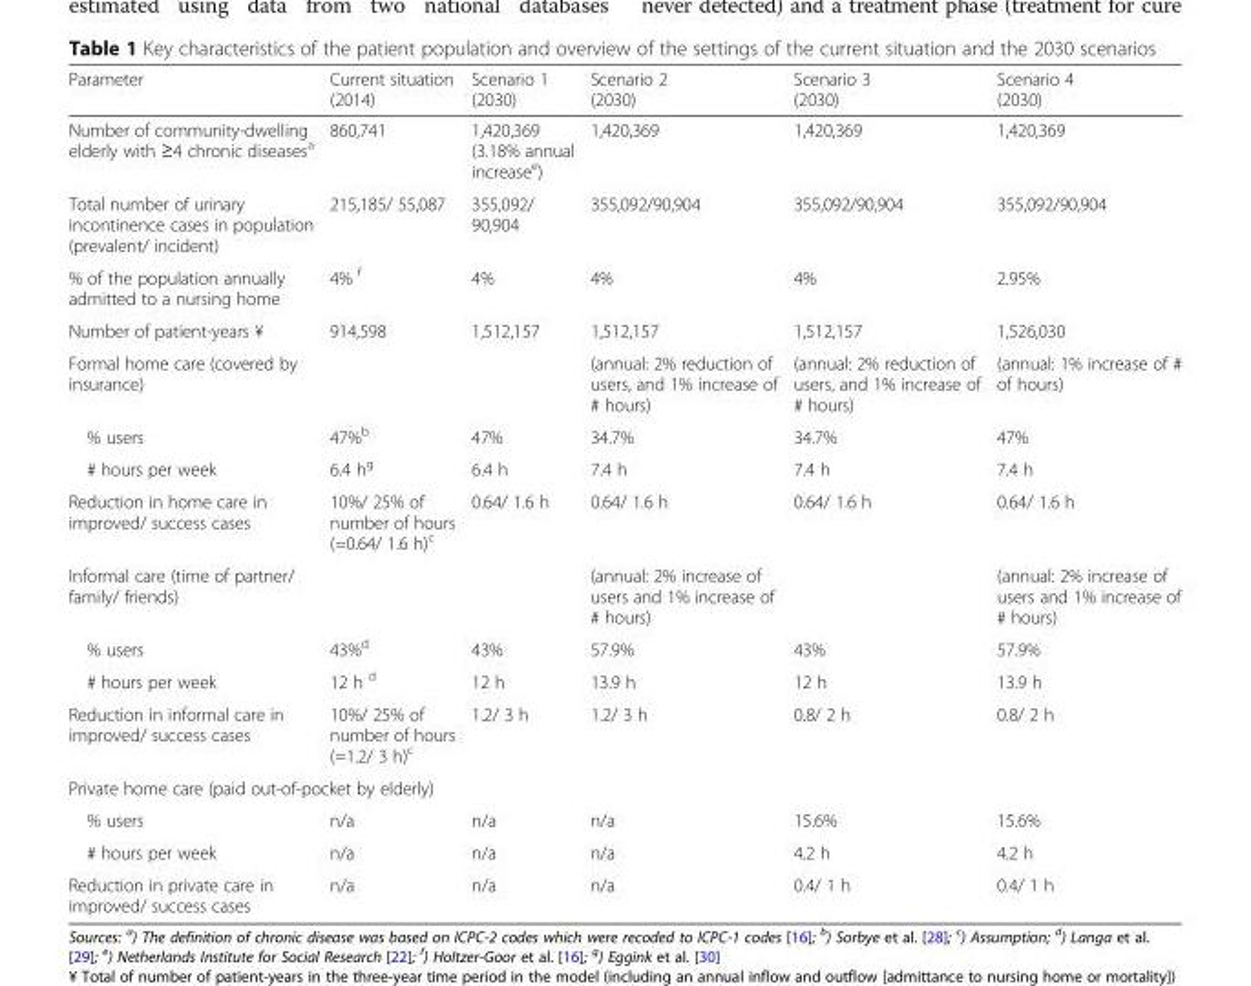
<table><thead><tr><td>Parameter</td><td>Current situation (2014)</td><td>Scenario 1 (2030)</td><td>Scenario 2 (2030)</td><td>Scenario 3 (2030)</td><td>Scenario 4 (2030)</td></tr></thead><tbody><tr><td>Number of community-dwelling elderly with ≥4 chronic diseases<sup>a</sup></td><td>860,741</td><td>1,420,369 (3.18% annual increase<sup>e</sup>)</td><td>1,420,369</td><td>1,420,369</td><td>1,420,369</td></tr><tr><td>Total number of urinary incontinence cases in population (prevalent/ incident)</td><td>215,185/ 55,087</td><td>355,092/ 90,904</td><td>355,092/90,904</td><td>355,092/90,904</td><td>355,092/90,904</td></tr><tr><td>% of the population annually admitted to a nursing home</td><td>4% <sup>f</sup></td><td>4%</td><td>4%</td><td>4%</td><td>2.95%</td></tr><tr><td>Number of patient-years ¥</td><td>914,598</td><td>1,512,157</td><td>1,512,157</td><td>1,512,157</td><td>1,526,030</td></tr><tr><td>Formal home care (covered by insurance)</td><td></td><td></td><td>(annual: 2% reduction of users, and 1% increase of # hours)</td><td>(annual: 2% reduction of users, and 1% increase of # hours)</td><td>(annual: 1% increase of # of hours)</td></tr><tr><td>% users</td><td>47%<sup>b</sup></td><td>47%</td><td>34.7%</td><td>34.7%</td><td>47%</td></tr><tr><td># hours per week</td><td>6.4 h<sup>g</sup></td><td>6.4 h</td><td>7.4 h</td><td>7.4 h</td><td>7.4 h</td></tr><tr><td>Reduction in home care in improved/ success cases</td><td>10%/ 25% of number of hours (=0.64/ 1.6 h)<sup>c</sup></td><td>0.64/ 1.6 h</td><td>0.64/ 1.6 h</td><td>0.64/ 1.6 h</td><td>0.64/ 1.6 h</td></tr><tr><td>Informal care (time of partner/ family/ friends)</td><td></td><td></td><td>(annual: 2% increase of users and 1% increase of # hours)</td><td></td><td>(annual: 2% increase of users and 1% increase of # hours)</td></tr><tr><td>% users</td><td>43%<sup>d</sup></td><td>43%</td><td>57.9%</td><td>43%</td><td>57.9%</td></tr><tr><td># hours per week</td><td>12 h <sup>d</sup></td><td>12 h</td><td>13.9 h</td><td>12 h</td><td>13.9 h</td></tr><tr><td>Reduction in informal care in improved/ success cases</td><td>10%/ 25% of number of hours (=1.2/ 3 h)<sup>c</sup></td><td>1.2/ 3 h</td><td>1.2/ 3 h</td><td>0.8/ 2 h</td><td>0.8/ 2 h</td></tr><tr><td colspan="6">Private home care (paid out-of-pocket by elderly)</td></tr><tr><td>% users</td><td>n/a</td><td>n/a</td><td>n/a</td><td>15.6%</td><td>15.6%</td></tr><tr><td># hours per week</td><td>n/a</td><td>n/a</td><td>n/a</td><td>4.2 h</td><td>4.2 h</td></tr><tr><td>Reduction in private care in improved/ success cases</td><td>n/a</td><td>n/a</td><td>n/a</td><td>0.4/ 1 h</td><td>0.4/ 1 h</td></tr></tbody></table>